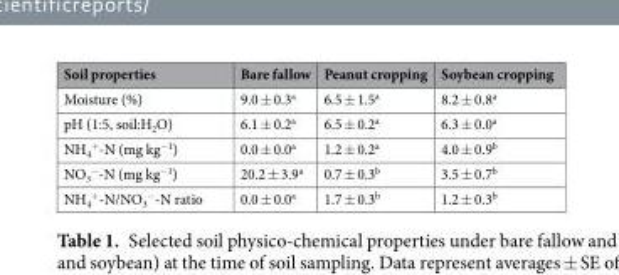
<table><thead><tr><td>Soil properties</td><td>Bare fallow</td><td>Peanut cropping</td><td>Soybean cropping</td></tr></thead><tbody><tr><td>Moisture (%)</td><td>9.0 ± 0.3<sup>a</sup></td><td>6.5 ± 1.5<sup>a</sup></td><td>8.2 ± 0.8<sup>a</sup></td></tr><tr><td>pH (1:5, soil:H<sub>2</sub>O)</td><td>6.1 ± 0.2<sup>a</sup></td><td>6.5 ± 0.2<sup>a</sup></td><td>6.3 ± 0.0<sup>a</sup></td></tr><tr><td>NH<sub>4</sub> <sup>+</sup>-N (mg kg<sup>−1</sup>)</td><td>0.0 ± 0.0<sup>a</sup></td><td>1.2 ± 0.2<sup>a</sup></td><td>4.0 ± 0.9<sup>b</sup></td></tr><tr><td>NO<sub>3</sub> <sup>−</sup>-N (mg kg<sup>−1</sup>)</td><td>20.2 ± 3.9<sup>a</sup></td><td>0.7 ± 0.3<sup>b</sup></td><td>3.5 ± 0.7<sup>b</sup></td></tr><tr><td>NH<sub>4</sub> <sup>+</sup>-N/NO<sub>3</sub> <sup>−</sup>-N ratio</td><td>0.0 ± 0.0<sup>a</sup></td><td>1.7 ± 0.3<sup>b</sup></td><td>1.2 ± 0.3<sup>b</sup></td></tr></tbody></table>